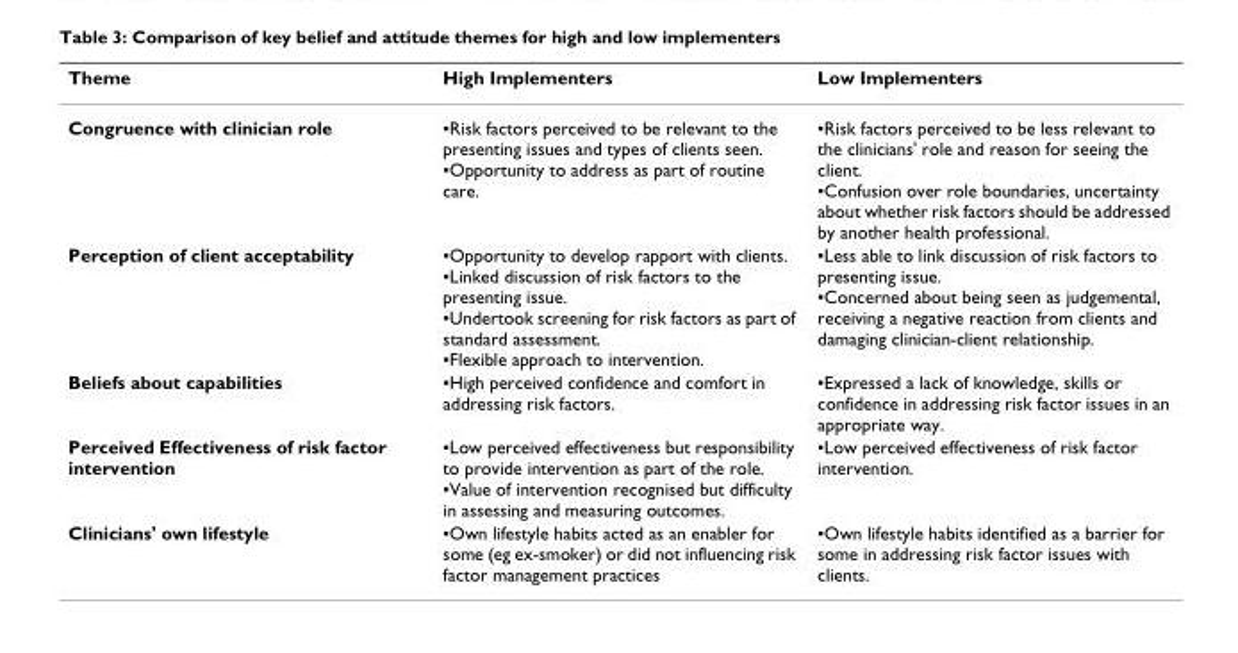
<table><thead><tr><td>Theme</td><td>High Implementers</td><td>Low Implementers</td></tr></thead><tbody><tr><td>Congruence with clinician role</td><td>▪Risk factors perceived to be relevant to the presenting issues and types of clients seen. ▪Opportunity to address as part of routine care.</td><td>▪Risk factors perceived to be less relevant to the clinicians&#x27; role and reason for seeing the client. ▪Confusion over role boundaries, uncertainty about whether risk factors should be addressed by another health professional.</td></tr><tr><td>Perception of client acceptability</td><td>▪Opportunity to develop rapport with clients. ▪Linked discussion of risk factors to the presenting issue. ▪Undertook screening for risk factors as part of standard assessment. ▪Flexible approach to intervention.</td><td>▪Less able to link discussion of risk factors to presenting issue. ▪Concerned about being seen as judgemental, receiving a negative reaction from clients and damaging clinician-client relationship.</td></tr><tr><td>Beliefs about capabilities</td><td>▪High perceived confidence and comfort in addressing risk factors.</td><td>▪Expressed a lack of knowledge, skills or confidence in addressing risk factor issues in an appropriate way.</td></tr><tr><td>Perceived Effectiveness of risk factor intervention</td><td>▪Low perceived effectiveness but responsibility to provide intervention as part of the role. ▪Value of intervention recognised but difficulty in assessing and measuring outcomes.</td><td>▪Low perceived effectiveness of risk factor intervention.</td></tr><tr><td>Clinicians&#x27; own lifestyle</td><td>▪Own lifestyle habits acted as an enabler for some (eg ex-smoker) or did not influencing risk factor management practices</td><td>▪Own lifestyle habits identified as a barrier for some in addressing risk factor issues with clients.</td></tr></tbody></table>